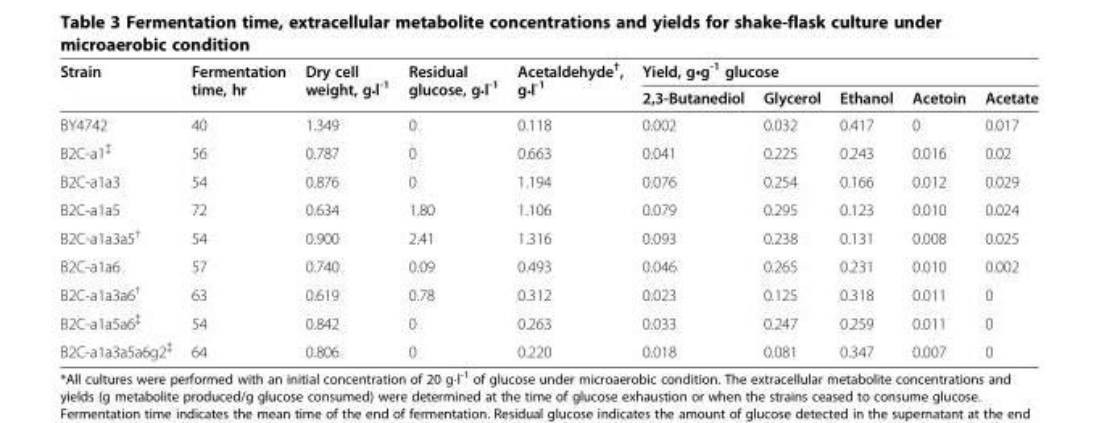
<table><thead><tr><td rowspan="2">Strain</td><td rowspan="2">Fermentation time, hr</td><td rowspan="2">Dry cell weight, g•l-1</td><td rowspan="2">Residual glucose, g•l-1</td><td rowspan="2">Acetaldehyde†, g•l-1</td><td colspan="5">Yield, g•g-1 glucose</td></tr><tr><td>2,3-Butanediol</td><td>Glycerol</td><td>Ethanol</td><td>Acetoin</td><td>Acetate</td></tr></thead><tbody><tr><td>BY4742</td><td>40</td><td>1.349</td><td>0</td><td>0.118</td><td>0.002</td><td>0.032</td><td>0.417</td><td>0</td><td>0.017</td></tr><tr><td>B2C-a1<sup>‡</sup></td><td>56</td><td>0.787</td><td>0</td><td>0.663</td><td>0.041</td><td>0.225</td><td>0.243</td><td>0.016</td><td>0.02</td></tr><tr><td>B2C-a1a3</td><td>54</td><td>0.876</td><td>0</td><td>1.194</td><td>0.076</td><td>0.254</td><td>0.166</td><td>0.012</td><td>0.029</td></tr><tr><td>B2C-a1a5</td><td>72</td><td>0.634</td><td>1.80</td><td>1.106</td><td>0.079</td><td>0.295</td><td>0.123</td><td>0.010</td><td>0.024</td></tr><tr><td>B2C-a1a3a5<sup>†</sup></td><td>54</td><td>0.900</td><td>2.41</td><td>1.316</td><td>0.093</td><td>0.238</td><td>0.131</td><td>0.008</td><td>0.025</td></tr><tr><td>B2C-a1a6</td><td>57</td><td>0.740</td><td>0.09</td><td>0.493</td><td>0.046</td><td>0.265</td><td>0.231</td><td>0.010</td><td>0.002</td></tr><tr><td>B2C-a1a3a6<sup>†</sup></td><td>63</td><td>0.619</td><td>0.78</td><td>0.312</td><td>0.023</td><td>0.125</td><td>0.318</td><td>0.011</td><td>0</td></tr><tr><td>B2C-a1a5a6<sup>‡</sup></td><td>54</td><td>0.842</td><td>0</td><td>0.263</td><td>0.033</td><td>0.247</td><td>0.259</td><td>0.011</td><td>0</td></tr><tr><td>B2C-a1a3a5a6g2<sup>‡</sup></td><td>64</td><td>0.806</td><td>0</td><td>0.220</td><td>0.018</td><td>0.081</td><td>0.347</td><td>0.007</td><td>0</td></tr></tbody></table>